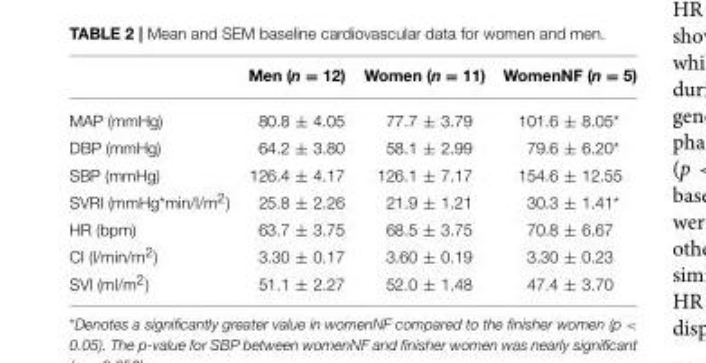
<table><thead><tr><td></td><td>Men (n = 12)</td><td>Women (n = 11)</td><td>WomenNF (n = 5)</td></tr></thead><tbody><tr><td>MAP (mmHg)</td><td>80.8 ± 4.05</td><td>77.7 ± 3.79</td><td>101.6 ± 8.05*</td></tr><tr><td>DBP (mmHg)</td><td>64.2 ± 3.80</td><td>58.1 ± 2.99</td><td>79.6 ± 6.20*</td></tr><tr><td>SBP (mmHg)</td><td>126.4 ± 4.17</td><td>126.1 ± 7.17</td><td>154.6 ± 12.55</td></tr><tr><td>SVRI (mmHg*min/l/m<sup>2</sup>)</td><td>25.8 ± 2.26</td><td>21.9 ± 1.21</td><td>30.3 ± 1.41*</td></tr><tr><td>HR (bpm)</td><td>63.7 ± 3.75</td><td>68.5 ± 3.75</td><td>70.8 ± 6.67</td></tr><tr><td>CI (l/min/m<sup>2</sup>)</td><td>3.30 ± 0.17</td><td>3.60 ± 0.19</td><td>3.30 ± 0.23</td></tr><tr><td>SVI (ml/m<sup>2</sup>)</td><td>51.1 ± 2.27</td><td>52.0 ± 1.48</td><td>47.4 ± 3.70</td></tr></tbody></table>